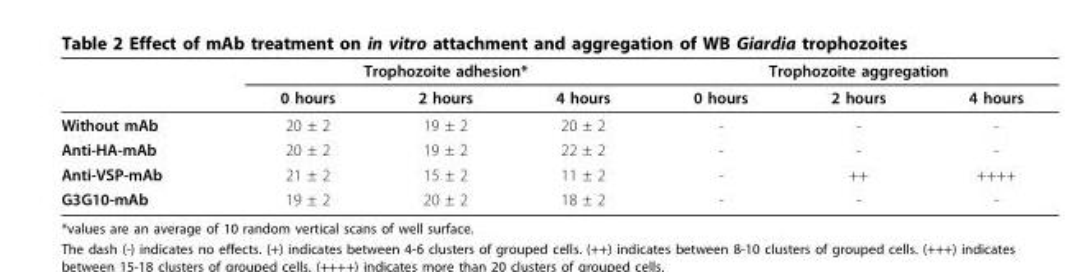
<table><thead><tr><td rowspan="2"></td><td colspan="3">Trophozoite adhesion*</td><td colspan="3">Trophozoite aggregation</td></tr><tr><td>0 hours</td><td>2 hours</td><td>4 hours</td><td>0 hours</td><td>2 hours</td><td>4 hours</td></tr></thead><tbody><tr><td>Without mAb</td><td>20 ± 2</td><td>19 ± 2</td><td>20 ± 2</td><td>-</td><td>-</td><td>-</td></tr><tr><td>Anti-HA-mAb</td><td>20 ± 2</td><td>19 ± 2</td><td>22 ± 2</td><td>-</td><td>-</td><td>-</td></tr><tr><td>Anti-VSP-mAb</td><td>21 ± 2</td><td>15 ± 2</td><td>11 ± 2</td><td>-</td><td>++</td><td>++++</td></tr><tr><td>G3G10-mAb</td><td>19 ± 2</td><td>20 ± 2</td><td>18 ± 2</td><td>-</td><td>-</td><td>-</td></tr></tbody></table>